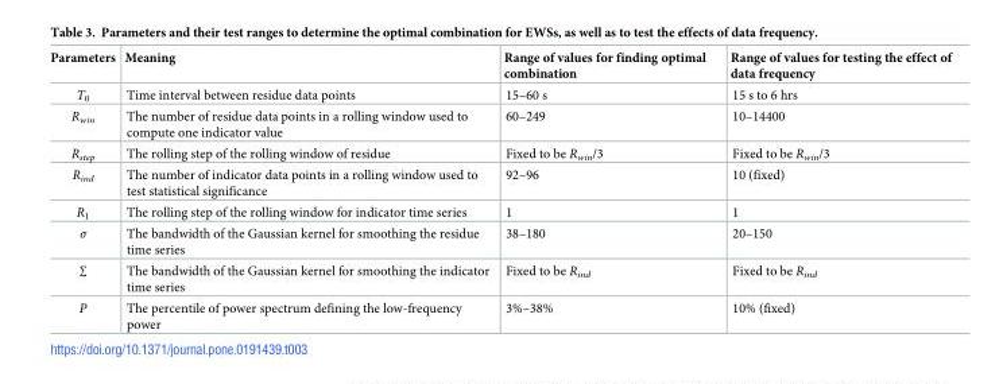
<table><thead><tr><td>Parameters</td><td>Meaning</td><td>Range of values for finding optimal combination</td><td>Range of values for testing the effect of data frequency</td></tr></thead><tbody><tr><td>T<sub>0</sub></td><td>Time interval between residue data points</td><td>15–60 s</td><td>15 s to 6 hrs</td></tr><tr><td>R<sub>win</sub></td><td>The number of residue data points in a rolling window used to compute one indicator value</td><td>60–249</td><td>10–14400</td></tr><tr><td>R<sub>step</sub></td><td>The rolling step of the rolling window of residue</td><td>Fixed to be R<sub>win</sub>/3</td><td>Fixed to be R<sub>win</sub>/3</td></tr><tr><td>R<sub>ind</sub></td><td>The number of indicator data points in a rolling window used to test statistical significance</td><td>92–96</td><td>10 (fixed)</td></tr><tr><td>R<sub>1</sub></td><td>The rolling step of the rolling window for indicator time series</td><td>1</td><td>1</td></tr><tr><td>σ</td><td>The bandwidth of the Gaussian kernel for smoothing the residue time series</td><td>38–180</td><td>20–150</td></tr><tr><td>∑</td><td>The bandwidth of the Gaussian kernel for smoothing the indicator time series</td><td>Fixed to be R<sub>ind</sub></td><td>Fixed to be R<sub>ind</sub></td></tr><tr><td>P</td><td>The percentile of power spectrum defining the low-frequency power</td><td>3%–38%</td><td>10% (fixed)</td></tr></tbody></table>